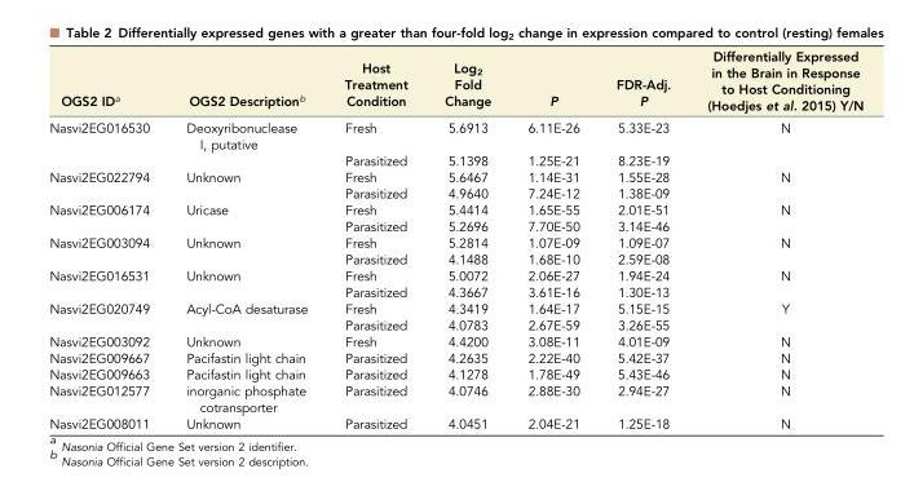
<table><thead><tr><td>OGS2 ID<sup>a</sup></td><td>OGS2 Description<sup>b</sup></td><td>Host Treatment Condition</td><td>Log<sub>2</sub> Fold Change</td><td>P</td><td>FDR-Adj. P</td><td>Differentially Expressed in the Brain in Response to Host Conditioning (Hoedjes et al. 2015) Y/N</td></tr></thead><tbody><tr><td rowspan="2">Nasvi2EG016530</td><td>Deoxyribonuclease I, putative</td><td>Fresh</td><td>5.6913</td><td>6.11E-26</td><td>5.33E-23</td><td>N</td></tr><tr><td></td><td>Parasitized</td><td>5.1398</td><td>1.25E-21</td><td>8.23E-19</td><td></td></tr><tr><td rowspan="2">Nasvi2EG022794</td><td>Unknown</td><td>Fresh</td><td>5.6467</td><td>1.14E-31</td><td>1.55E-28</td><td>N</td></tr><tr><td></td><td>Parasitized</td><td>4.9640</td><td>7.24E-12</td><td>1.38E-09</td><td></td></tr><tr><td rowspan="2">Nasvi2EG006174</td><td>Uricase</td><td>Fresh</td><td>5.4414</td><td>1.65E-55</td><td>2.01E-51</td><td>N</td></tr><tr><td></td><td>Parasitized</td><td>5.2696</td><td>7.70E-50</td><td>3.14E-46</td><td></td></tr><tr><td rowspan="2">Nasvi2EG003094</td><td>Unknown</td><td>Fresh</td><td>5.2814</td><td>1.07E-09</td><td>1.09E-07</td><td>N</td></tr><tr><td></td><td>Parasitized</td><td>4.1488</td><td>1.68E-10</td><td>2.59E-08</td><td></td></tr><tr><td rowspan="2">Nasvi2EG016531</td><td>Unknown</td><td>Fresh</td><td>5.0072</td><td>2.06E-27</td><td>1.94E-24</td><td>N</td></tr><tr><td></td><td>Parasitized</td><td>4.3667</td><td>3.61E-16</td><td>1.30E-13</td><td></td></tr><tr><td rowspan="2">Nasvi2EG020749</td><td>Acyl-CoA desaturase</td><td>Fresh</td><td>4.3419</td><td>1.64E-17</td><td>5.15E-15</td><td>Y</td></tr><tr><td></td><td>Parasitized</td><td>4.0783</td><td>2.67E-59</td><td>3.26E-55</td><td></td></tr><tr><td>Nasvi2EG003092</td><td>Unknown</td><td>Fresh</td><td>4.4200</td><td>3.08E-11</td><td>4.01E-09</td><td>N</td></tr><tr><td>Nasvi2EG009667</td><td>Pacifastin light chain</td><td>Parasitized</td><td>4.2635</td><td>2.22E-40</td><td>5.42E-37</td><td>N</td></tr><tr><td>Nasvi2EG009663</td><td>Pacifastin light chain</td><td>Parasitized</td><td>4.1278</td><td>1.78E-49</td><td>5.43E-46</td><td>N</td></tr><tr><td>Nasvi2EG012577</td><td>inorganic phosphate cotransporter</td><td>Parasitized</td><td>4.0746</td><td>2.88E-30</td><td>2.94E-27</td><td>N</td></tr><tr><td>Nasvi2EG008011</td><td>Unknown</td><td>Parasitized</td><td>4.0451</td><td>2.04E-21</td><td>1.25E-18</td><td>N</td></tr></tbody></table>